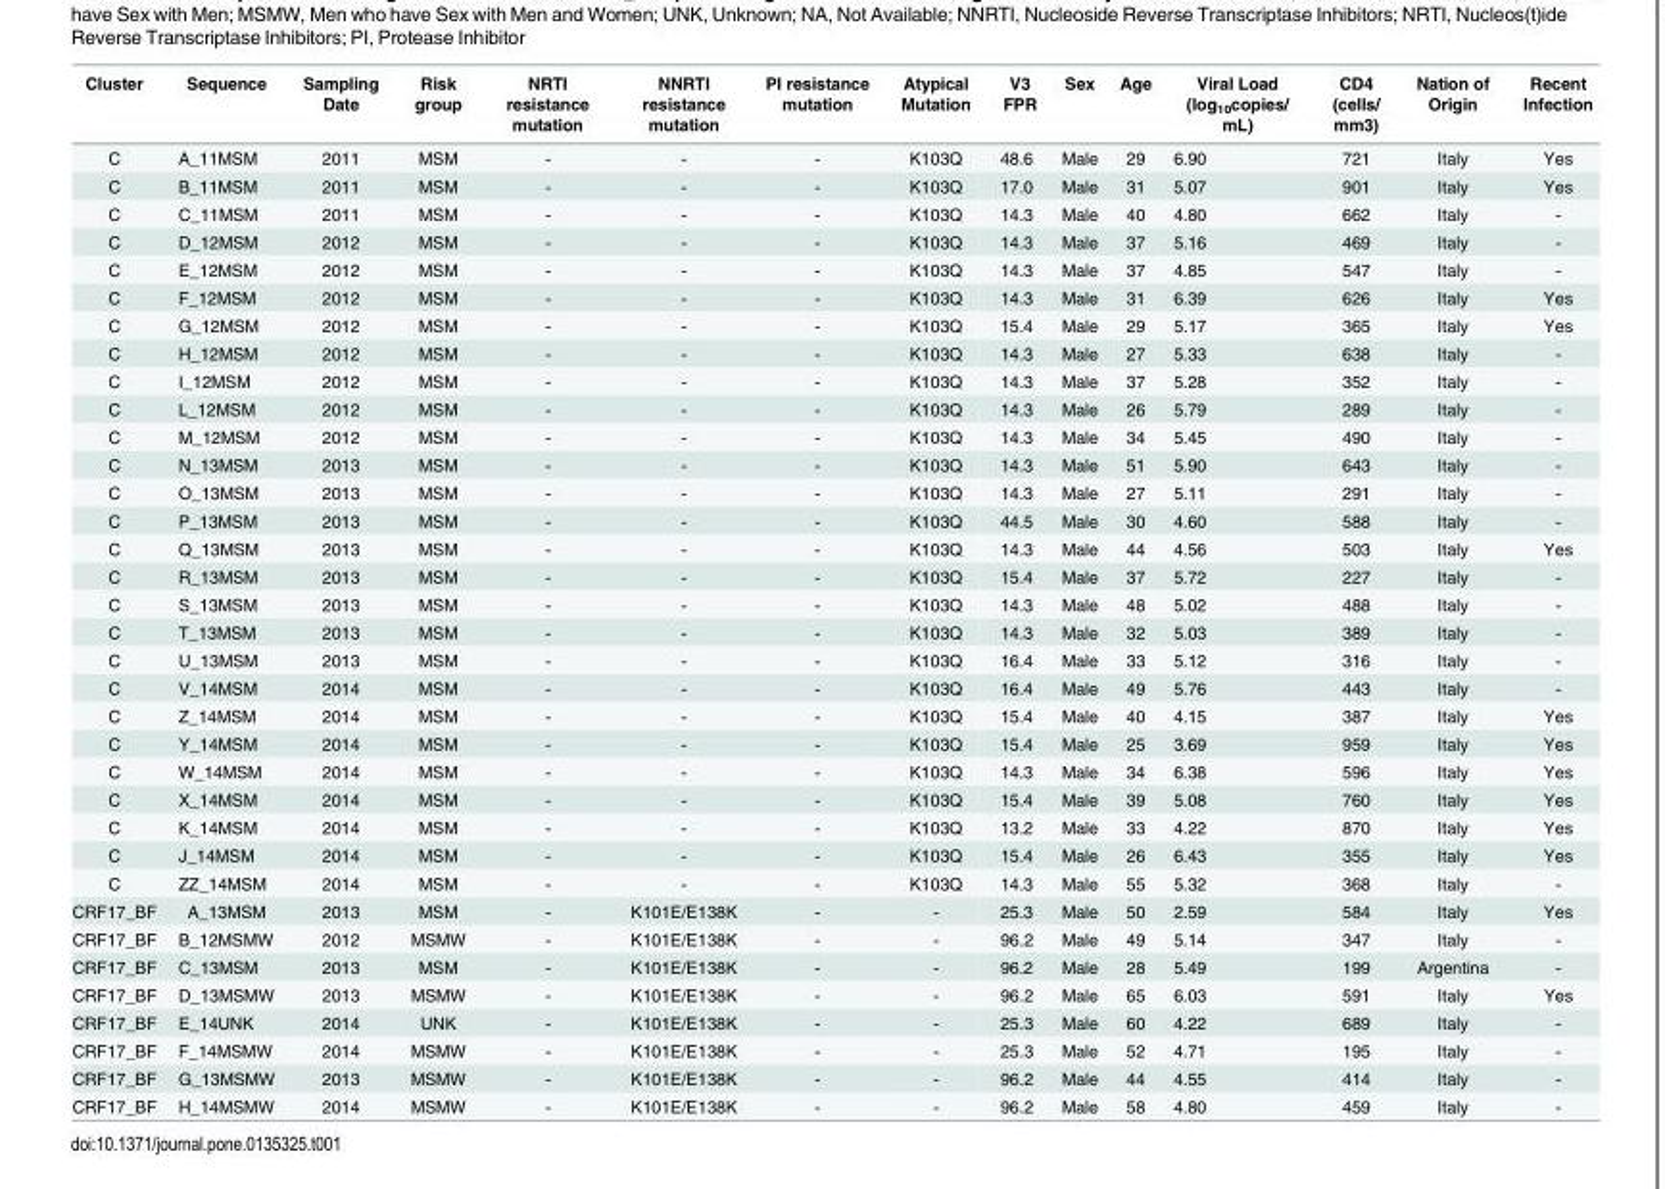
<table><thead><tr><td>Cluster</td><td>Sequence</td><td>Sampling Date</td><td>Risk group</td><td>NRTI resistance mutation</td><td>NNRTI resistance mutation</td><td>PI resistance mutation</td><td>Atypical Mutation</td><td>V3 FPR</td><td>Sex</td><td>Age</td><td>Viral Load (log<sub>10</sub>copies/ mL)</td><td>CD4 (cells/ mm3)</td><td>Nation of Origin</td><td>Recent Infection</td></tr></thead><tbody><tr><td>C</td><td>A_11MSM</td><td>2011</td><td>MSM</td><td>-</td><td>-</td><td>-</td><td>K103Q</td><td>48.6</td><td>Male</td><td>29</td><td>6.90</td><td>721</td><td>Italy</td><td>Yes</td></tr><tr><td>C</td><td>B_11MSM</td><td>2011</td><td>MSM</td><td>-</td><td>-</td><td>-</td><td>K103Q</td><td>17.0</td><td>Male</td><td>31</td><td>5.07</td><td>901</td><td>Italy</td><td>Yes</td></tr><tr><td>C</td><td>C_11MSM</td><td>2011</td><td>MSM</td><td>-</td><td>-</td><td>-</td><td>K103Q</td><td>14.3</td><td>Male</td><td>40</td><td>4.80</td><td>662</td><td>Italy</td><td>-</td></tr><tr><td>C</td><td>D_12MSM</td><td>2012</td><td>MSM</td><td>-</td><td>-</td><td>-</td><td>K103Q</td><td>14.3</td><td>Male</td><td>37</td><td>5.16</td><td>469</td><td>Italy</td><td>-</td></tr><tr><td>C</td><td>E_12MSM</td><td>2012</td><td>MSM</td><td>-</td><td>-</td><td>-</td><td>K103Q</td><td>14.3</td><td>Male</td><td>37</td><td>4.85</td><td>547</td><td>Italy</td><td>-</td></tr><tr><td>C</td><td>F_12MSM</td><td>2012</td><td>MSM</td><td>-</td><td>-</td><td>-</td><td>K103Q</td><td>14.3</td><td>Male</td><td>31</td><td>6.39</td><td>626</td><td>Italy</td><td>Yes</td></tr><tr><td>C</td><td>G_12MSM</td><td>2012</td><td>MSM</td><td>-</td><td>-</td><td>-</td><td>K103Q</td><td>15.4</td><td>Male</td><td>29</td><td>5.17</td><td>365</td><td>Italy</td><td>Yes</td></tr><tr><td>C</td><td>H_12MSM</td><td>2012</td><td>MSM</td><td>-</td><td>-</td><td>-</td><td>K103Q</td><td>14.3</td><td>Male</td><td>27</td><td>5.33</td><td>638</td><td>Italy</td><td>-</td></tr><tr><td>C</td><td>I_12MSM</td><td>2012</td><td>MSM</td><td>-</td><td>-</td><td>-</td><td>K103Q</td><td>14.3</td><td>Male</td><td>37</td><td>5.28</td><td>352</td><td>Italy</td><td>-</td></tr><tr><td>C</td><td>L_12MSM</td><td>2012</td><td>MSM</td><td>-</td><td>-</td><td>-</td><td>K103Q</td><td>14.3</td><td>Male</td><td>26</td><td>5.79</td><td>289</td><td>Italy</td><td>-</td></tr><tr><td>C</td><td>M_12MSM</td><td>2012</td><td>MSM</td><td>-</td><td>-</td><td>-</td><td>K103Q</td><td>14.3</td><td>Male</td><td>34</td><td>5.45</td><td>490</td><td>Italy</td><td>-</td></tr><tr><td>C</td><td>N_13MSM</td><td>2013</td><td>MSM</td><td>-</td><td>-</td><td>-</td><td>K103Q</td><td>14.3</td><td>Male</td><td>51</td><td>5.90</td><td>643</td><td>Italy</td><td>-</td></tr><tr><td>C</td><td>O_13MSM</td><td>2013</td><td>MSM</td><td>-</td><td>-</td><td>-</td><td>K103Q</td><td>14.3</td><td>Male</td><td>27</td><td>5.11</td><td>291</td><td>Italy</td><td>-</td></tr><tr><td>C</td><td>P_13MSM</td><td>2013</td><td>MSM</td><td>-</td><td>-</td><td>-</td><td>K103Q</td><td>44.5</td><td>Male</td><td>30</td><td>4.60</td><td>588</td><td>Italy</td><td>-</td></tr><tr><td>C</td><td>Q_13MSM</td><td>2013</td><td>MSM</td><td>-</td><td>-</td><td>-</td><td>K103Q</td><td>14.3</td><td>Male</td><td>44</td><td>4.56</td><td>503</td><td>Italy</td><td>Yes</td></tr><tr><td>C</td><td>R_13MSM</td><td>2013</td><td>MSM</td><td>-</td><td>-</td><td>-</td><td>K103Q</td><td>15.4</td><td>Male</td><td>37</td><td>5.72</td><td>227</td><td>Italy</td><td>-</td></tr><tr><td>C</td><td>S_13MSM</td><td>2013</td><td>MSM</td><td>-</td><td>-</td><td>-</td><td>K103Q</td><td>14.3</td><td>Male</td><td>48</td><td>5.02</td><td>488</td><td>Italy</td><td>-</td></tr><tr><td>C</td><td>T_13MSM</td><td>2013</td><td>MSM</td><td>-</td><td>-</td><td>-</td><td>K103Q</td><td>14.3</td><td>Male</td><td>32</td><td>5.03</td><td>389</td><td>Italy</td><td>-</td></tr><tr><td>C</td><td>U_13MSM</td><td>2013</td><td>MSM</td><td>-</td><td>-</td><td>-</td><td>K103Q</td><td>16.4</td><td>Male</td><td>33</td><td>5.12</td><td>316</td><td>Italy</td><td>-</td></tr><tr><td>C</td><td>V_14MSM</td><td>2014</td><td>MSM</td><td>-</td><td>-</td><td>-</td><td>K103Q</td><td>16.4</td><td>Male</td><td>49</td><td>5.76</td><td>443</td><td>Italy</td><td>-</td></tr><tr><td>C</td><td>Z_14MSM</td><td>2014</td><td>MSM</td><td>-</td><td>-</td><td>-</td><td>K103Q</td><td>15.4</td><td>Male</td><td>40</td><td>4.15</td><td>387</td><td>Italy</td><td>Yes</td></tr><tr><td>C</td><td>Y_14MSM</td><td>2014</td><td>MSM</td><td>-</td><td>-</td><td>-</td><td>K103Q</td><td>15.4</td><td>Male</td><td>25</td><td>3.69</td><td>959</td><td>Italy</td><td>Yes</td></tr><tr><td>C</td><td>W_14MSM</td><td>2014</td><td>MSM</td><td>-</td><td>-</td><td>-</td><td>K103Q</td><td>14.3</td><td>Male</td><td>34</td><td>6.38</td><td>596</td><td>Italy</td><td>Yes</td></tr><tr><td>C</td><td>X_14MSM</td><td>2014</td><td>MSM</td><td>-</td><td>-</td><td>-</td><td>K103Q</td><td>15.4</td><td>Male</td><td>39</td><td>5.08</td><td>760</td><td>Italy</td><td>Yes</td></tr><tr><td>C</td><td>K_14MSM</td><td>2014</td><td>MSM</td><td>-</td><td>-</td><td>-</td><td>K103Q</td><td>13.2</td><td>Male</td><td>33</td><td>4.22</td><td>870</td><td>Italy</td><td>Yes</td></tr><tr><td>C</td><td>J_14MSM</td><td>2014</td><td>MSM</td><td>-</td><td>-</td><td>-</td><td>K103Q</td><td>15.4</td><td>Male</td><td>26</td><td>6.43</td><td>355</td><td>Italy</td><td>Yes</td></tr><tr><td>C</td><td>ZZ_14MSM</td><td>2014</td><td>MSM</td><td>-</td><td>-</td><td>-</td><td>K103Q</td><td>14.3</td><td>Male</td><td>55</td><td>5.32</td><td>368</td><td>Italy</td><td>-</td></tr><tr><td>CRF17_BF</td><td>A_13MSM</td><td>2013</td><td>MSM</td><td>-</td><td>K101E/E138K</td><td>-</td><td>-</td><td>25.3</td><td>Male</td><td>50</td><td>2.59</td><td>584</td><td>Italy</td><td>Yes</td></tr><tr><td>CRF17_BF</td><td>B_12MSMW</td><td>2012</td><td>MSMW</td><td>-</td><td>K101E/E138K</td><td>-</td><td>-</td><td>96.2</td><td>Male</td><td>49</td><td>5.14</td><td>347</td><td>Italy</td><td>-</td></tr><tr><td>CRF17_BF</td><td>C_13MSM</td><td>2013</td><td>MSM</td><td>-</td><td>K101E/E138K</td><td>-</td><td>-</td><td>96.2</td><td>Male</td><td>28</td><td>5.49</td><td>199</td><td>Argentina</td><td>-</td></tr><tr><td>CRF17_BF</td><td>D_13MSMW</td><td>2013</td><td>MSMW</td><td>-</td><td>K101E/E138K</td><td>-</td><td>-</td><td>96.2</td><td>Male</td><td>65</td><td>6.03</td><td>591</td><td>Italy</td><td>Yes</td></tr><tr><td>CRF17_BF</td><td>E_14UNK</td><td>2014</td><td>UNK</td><td>-</td><td>K101E/E138K</td><td>-</td><td>-</td><td>25.3</td><td>Male</td><td>60</td><td>4.22</td><td>689</td><td>Italy</td><td>-</td></tr><tr><td>CRF17_BF</td><td>F_14MSMW</td><td>2014</td><td>MSMW</td><td>-</td><td>K101E/E138K</td><td>-</td><td>-</td><td>25.3</td><td>Male</td><td>52</td><td>4.71</td><td>195</td><td>Italy</td><td>-</td></tr><tr><td>CRF17_BF</td><td>G_13MSMW</td><td>2013</td><td>MSMW</td><td>-</td><td>K101E/E138K</td><td>-</td><td>-</td><td>96.2</td><td>Male</td><td>44</td><td>4.55</td><td>414</td><td>Italy</td><td>-</td></tr><tr><td>CRF17_BF</td><td>H_14MSMW</td><td>2014</td><td>MSMW</td><td>-</td><td>K101E/E138K</td><td>-</td><td>-</td><td>96.2</td><td>Male</td><td>58</td><td>4.80</td><td>459</td><td>Italy</td><td>-</td></tr></tbody></table>